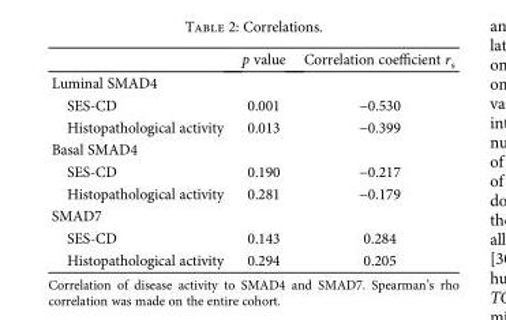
<table><thead><tr><td></td><td>p value</td><td>Correlation coefficient r<sub>s</sub></td></tr></thead><tbody><tr><td colspan="3">Luminal SMAD4</td></tr><tr><td>SES-CD</td><td>0.001</td><td>−0.530</td></tr><tr><td>Histopathological activity</td><td>0.013</td><td>−0.399</td></tr><tr><td colspan="3">Basal SMAD4</td></tr><tr><td>SES-CD</td><td>0.190</td><td>−0.217</td></tr><tr><td>Histopathological activity</td><td>0.281</td><td>−0.179</td></tr><tr><td colspan="3">SMAD7</td></tr><tr><td>SES-CD</td><td>0.143</td><td>0.284</td></tr><tr><td>Histopathological activity</td><td>0.294</td><td>0.205</td></tr></tbody></table>